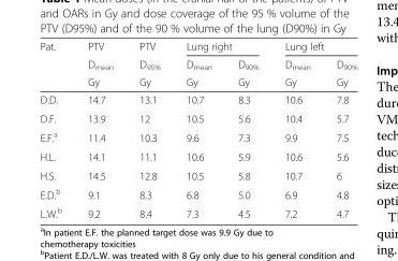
<table><thead><tr><td rowspan="3">Pat.</td><td rowspan="3">PTV D<sub>mean</sub> Gy</td><td rowspan="3">PTV D<sub>95%</sub> Gy</td><td colspan="2">Lung right</td><td colspan="2">Lung left</td></tr><tr><td rowspan="2">D<sub>mean</sub> Gy</td><td rowspan="2">D<sub>90%</sub> Gy</td><td rowspan="2">D<sub>mean</sub> Gy</td><td rowspan="2">D<sub>90%</sub> Gy</td></tr><tr></tr></thead><tbody><tr><td>D.D.</td><td>14.7</td><td>13.1</td><td>10.7</td><td>8.3</td><td>10.6</td><td>7.8</td></tr><tr><td>D.F.</td><td>13.9</td><td>12</td><td>10.5</td><td>5.6</td><td>10.4</td><td>5.7</td></tr><tr><td>E.F.<sup>a</sup></td><td>11.4</td><td>10.3</td><td>9.6</td><td>7.3</td><td>9.9</td><td>7.5</td></tr><tr><td>H.L.</td><td>14.1</td><td>11.1</td><td>10.6</td><td>5.9</td><td>10.6</td><td>5.6</td></tr><tr><td>H.S.</td><td>14.5</td><td>12.8</td><td>10.5</td><td>5.8</td><td>10.7</td><td>6</td></tr><tr><td>E.D.<sup>b</sup></td><td>9.1</td><td>8.3</td><td>6.8</td><td>5.0</td><td>6.9</td><td>4.8</td></tr><tr><td>L.W.<sup>b</sup></td><td>9.2</td><td>8.4</td><td>7.3</td><td>4.5</td><td>7.2</td><td>4.7</td></tr></tbody></table>